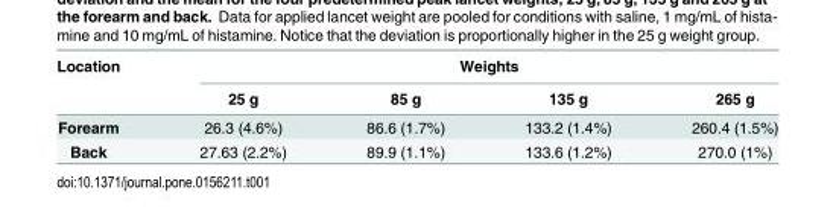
<table><thead><tr><td rowspan="2">Location</td><td colspan="4">Weights</td></tr><tr><td>25 g</td><td>85 g</td><td>135 g</td><td>265 g</td></tr></thead><tbody><tr><td>Forearm</td><td>26.3 (4.6%)</td><td>86.6 (1.7%)</td><td>133.2 (1.4%)</td><td>260.4 (1.5%)</td></tr><tr><td>Back</td><td>27.63 (2.2%)</td><td>89.9 (1.1%)</td><td>133.6 (1.2%)</td><td>270.0 (1%)</td></tr></tbody></table>